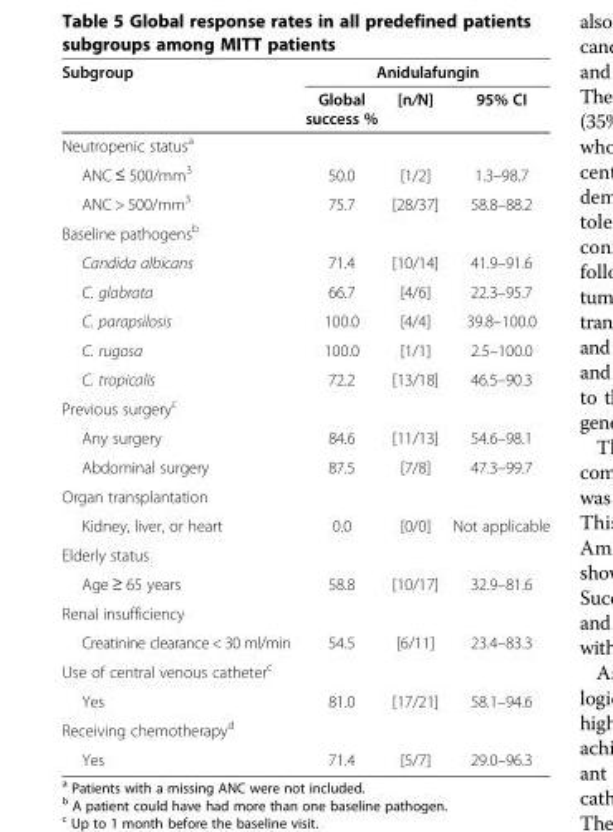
<table><thead><tr><td rowspan="2">Subgroup</td><td colspan="3">Anidulafungin</td></tr><tr><td>Global success %</td><td>[n/N]</td><td>95% CI</td></tr></thead><tbody><tr><td colspan="4">Neutropenic status<sup>a</sup></td></tr><tr><td>ANC ≤ 500/mm<sup>3</sup></td><td>50.0</td><td>[1/2]</td><td>1.3–98.7</td></tr><tr><td>ANC &gt; 500/mm<sup>3</sup></td><td>75.7</td><td>[28/37]</td><td>58.8–88.2</td></tr><tr><td colspan="4">Baseline pathogens<sup>b</sup></td></tr><tr><td>Candida albicans</td><td>71.4</td><td>[10/14]</td><td>41.9–91.6</td></tr><tr><td>C. glabrata</td><td>66.7</td><td>[4/6]</td><td>22.3–95.7</td></tr><tr><td>C. parapsilosis</td><td>100.0</td><td>[4/4]</td><td>39.8–100.0</td></tr><tr><td>C. rugosa</td><td>100.0</td><td>[1/1]</td><td>2.5–100.0</td></tr><tr><td>C. tropicalis</td><td>72.2</td><td>[13/18]</td><td>46.5–90.3</td></tr><tr><td colspan="4">Previous surgery<sup>c</sup></td></tr><tr><td>Any surgery</td><td>84.6</td><td>[11/13]</td><td>54.6–98.1</td></tr><tr><td>Abdominal surgery</td><td>87.5</td><td>[7/8]</td><td>47.3–99.7</td></tr><tr><td colspan="4">Organ transplantation</td></tr><tr><td>Kidney, liver, or heart</td><td>0.0</td><td>[0/0]</td><td>Not applicable</td></tr><tr><td colspan="4">Elderly status</td></tr><tr><td>Age ≥ 65 years</td><td>58.8</td><td>[10/17]</td><td>32.9–81.6</td></tr><tr><td colspan="4">Renal insufficiency</td></tr><tr><td>Creatinine clearance &lt; 30 ml/min</td><td>54.5</td><td>[6/11]</td><td>23.4–83.3</td></tr><tr><td colspan="4">Use of central venous catheter<sup>c</sup></td></tr><tr><td>Yes</td><td>81.0</td><td>[17/21]</td><td>58.1–94.6</td></tr><tr><td colspan="4">Receiving chemotherapy<sup>d</sup></td></tr><tr><td>Yes</td><td>71.4</td><td>[5/7]</td><td>29.0–96.3</td></tr></tbody></table>